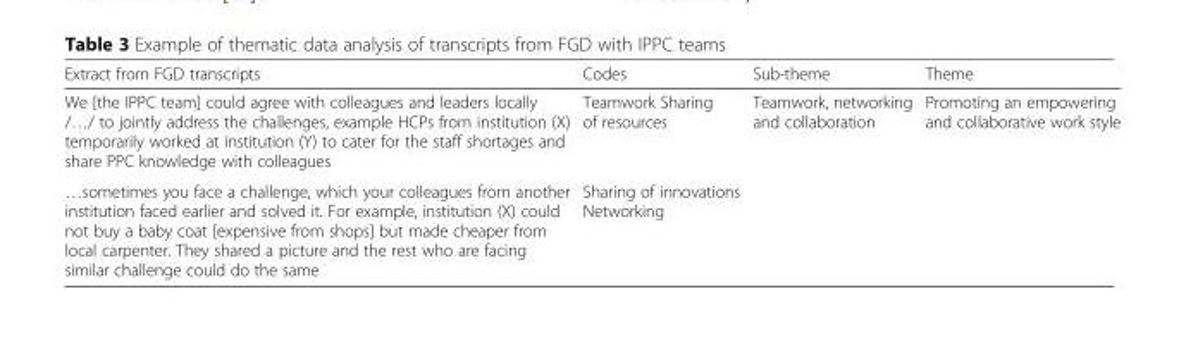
<table><thead><tr><td>Extract from FGD transcripts</td><td>Codes</td><td>Sub-theme</td><td>Theme</td></tr></thead><tbody><tr><td>We [the IPPC team] could agree with colleagues and leaders locally /…/ to jointly address the challenges, example HCPs from institution (X) temporarily worked at institution (Y) to cater for the staff shortages and share PPC knowledge with colleagues</td><td>Teamwork Sharing of resources</td><td rowspan="2">Teamwork, networking and collaboration</td><td rowspan="2">Promoting an empowering and collaborative work style</td></tr><tr><td>…sometimes you face a challenge, which your colleagues from another institution faced earlier and solved it. For example, institution (X) could not buy a baby coat [expensive from shops] but made cheaper from local carpenter. They shared a picture and the rest who are facing similar challenge could do the same</td><td>Sharing of innovations Networking</td></tr></tbody></table>